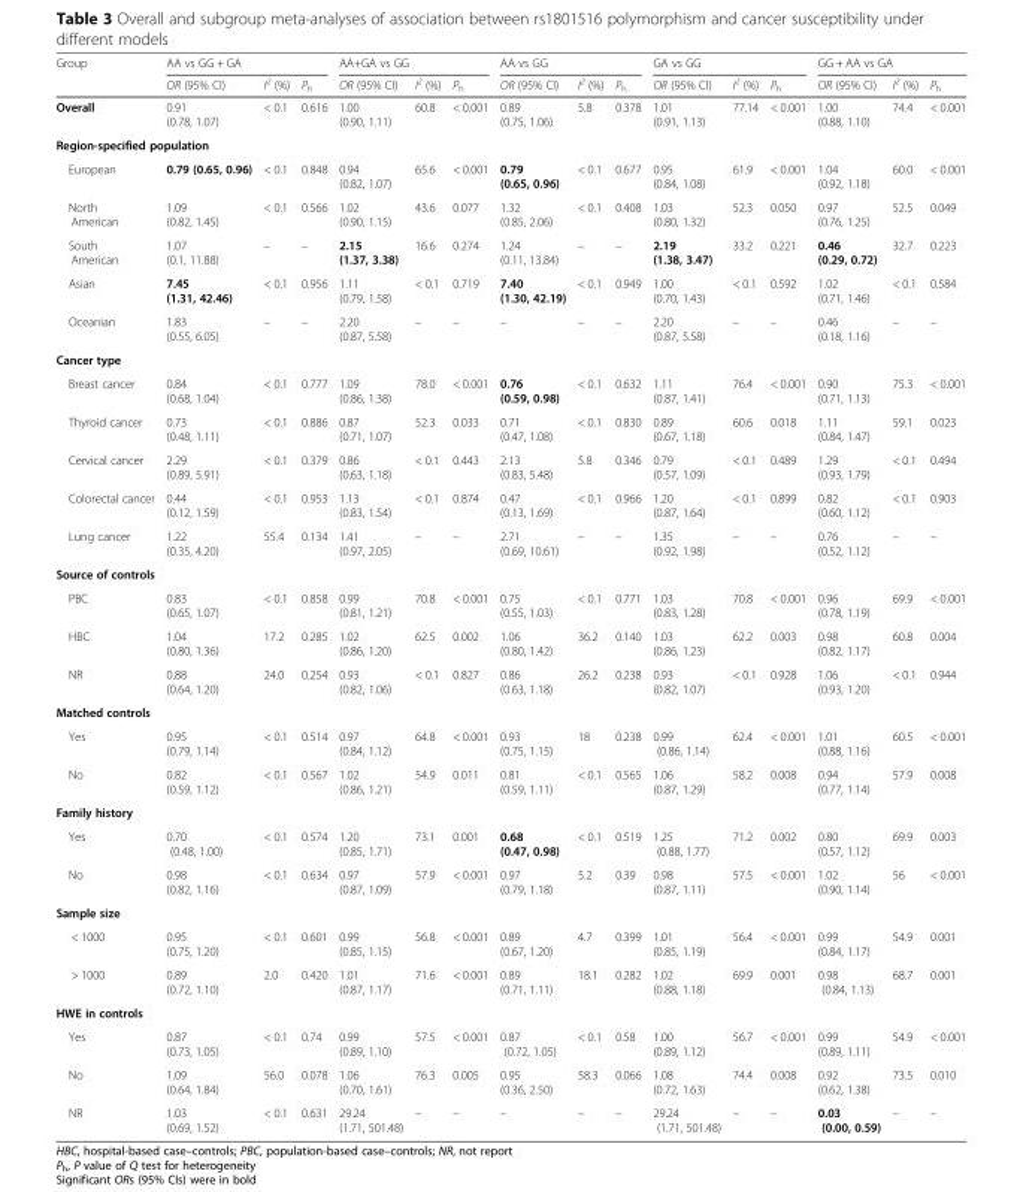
<table><thead><tr><td rowspan="2">Group</td><td colspan="3">AA vs GG + GA</td><td colspan="3">AA+GA vs GG</td><td colspan="3">AA vs GG</td><td colspan="3">GA vs GG</td><td colspan="3">GG + AA vs GA</td></tr><tr><td>OR (95% CI)</td><td>I<sup>2</sup> (%)</td><td>P<sub>h</sub></td><td>OR (95% CI)</td><td>I<sup>2</sup> (%)</td><td>P<sub>h</sub></td><td>OR (95% CI)</td><td>I<sup>2</sup> (%)</td><td>P<sub>h</sub></td><td>OR (95% CI)</td><td>I<sup>2</sup> (%)</td><td>P<sub>h</sub></td><td>OR (95% CI)</td><td>I<sup>2</sup> (%)</td><td>P<sub>h</sub></td></tr></thead><tbody><tr><td>Overall</td><td>0.91 (0.78, 1.07)</td><td>&lt; 0.1</td><td>0.616</td><td>1.00 (0.90, 1.11)</td><td>60.8</td><td>&lt; 0.001</td><td>0.89 (0.75, 1.06)</td><td>5.8</td><td>0.378</td><td>1.01 (0.91, 1.13)</td><td>77.14</td><td>&lt; 0.001</td><td>1.00 (0.88, 1.10)</td><td>74.4</td><td>&lt; 0.001</td></tr><tr><td colspan="16">Region-specified population</td></tr><tr><td>European</td><td>0.79 (0.65, 0.96)</td><td>&lt; 0.1</td><td>0.848</td><td>0.94 (0.82, 1.07)</td><td>65.6</td><td>&lt; 0.001</td><td>0.79 (0.65, 0.96)</td><td>&lt; 0.1</td><td>0.677</td><td>0.95 (0.84, 1.08)</td><td>61.9</td><td>&lt; 0.001</td><td>1.04 (0.92, 1.18)</td><td>60.0</td><td>&lt; 0.001</td></tr><tr><td>North American</td><td>1.09 (0.82, 1.45)</td><td>&lt; 0.1</td><td>0.566</td><td>1.02 (0.90, 1.15)</td><td>43.6</td><td>0.077</td><td>1.32 (0.85, 2.06)</td><td>&lt; 0.1</td><td>0.408</td><td>1.03 (0.80, 1.32)</td><td>52.3</td><td>0.050</td><td>0.97 (0.76, 1.25)</td><td>52.5</td><td>0.049</td></tr><tr><td>South American</td><td>1.07 (0.1, 11.88)</td><td>–</td><td>–</td><td>2.15 (1.37, 3.38)</td><td>16.6</td><td>0.274</td><td>1.24 (0.11, 13.84)</td><td>–</td><td>–</td><td>2.19 (1.38, 3.47)</td><td>33.2</td><td>0.221</td><td>0.46 (0.29, 0.72)</td><td>32.7</td><td>0.223</td></tr><tr><td>Asian</td><td>7.45 (1.31, 42.46)</td><td>&lt; 0.1</td><td>0.956</td><td>1.11 (0.79, 1.58)</td><td>&lt; 0.1</td><td>0.719</td><td>7.40 (1.30, 42.19)</td><td>&lt; 0.1</td><td>0.949</td><td>1.00 (0.70, 1.43)</td><td>&lt; 0.1</td><td>0.592</td><td>1.02 (0.71, 1.46)</td><td>&lt; 0.1</td><td>0.584</td></tr><tr><td>Oceanian</td><td>1.83 (0.55, 6.05)</td><td>–</td><td>–</td><td>2.20 (0.87, 5.58)</td><td>–</td><td>–</td><td>–</td><td>–</td><td>–</td><td>2.20 (0.87, 5.58)</td><td>–</td><td>–</td><td>0.46 (0.18, 1.16)</td><td>–</td><td>–</td></tr><tr><td colspan="16">Cancer type</td></tr><tr><td>Breast cancer</td><td>0.84 (0.68, 1.04)</td><td>&lt; 0.1</td><td>0.777</td><td>1.09 (0.86, 1.38)</td><td>78.0</td><td>&lt; 0.001</td><td>0.76 (0.59, 0.98)</td><td>&lt; 0.1</td><td>0.632</td><td>1.11 (0.87, 1.41)</td><td>76.4</td><td>&lt; 0.001</td><td>0.90 (0.71, 1.13)</td><td>75.3</td><td>&lt; 0.001</td></tr><tr><td>Thyroid cancer</td><td>0.73 (0.48, 1.11)</td><td>&lt; 0.1</td><td>0.886</td><td>0.87 (0.71, 1.07)</td><td>52.3</td><td>0.033</td><td>0.71 (0.47, 1.08)</td><td>&lt; 0.1</td><td>0.830</td><td>0.89 (0.67, 1.18)</td><td>60.6</td><td>0.018</td><td>1.11 (0.84, 1.47)</td><td>59.1</td><td>0.023</td></tr><tr><td>Cervical cancer</td><td>2.29 (0.89, 5.91)</td><td>&lt; 0.1</td><td>0.379</td><td>0.86 (0.63, 1.18)</td><td>&lt; 0.1</td><td>0.443</td><td>2.13 (0.83, 5.48)</td><td>5.8</td><td>0.346</td><td>0.79 (0.57, 1.09)</td><td>&lt; 0.1</td><td>0.489</td><td>1.29 (0.93, 1.79)</td><td>&lt; 0.1</td><td>0.494</td></tr><tr><td>Colorectal cancer</td><td>0.44 (0.12, 1.59)</td><td>&lt; 0.1</td><td>0.953</td><td>1.13 (0.83, 1.54)</td><td>&lt; 0.1</td><td>0.874</td><td>0.47 (0.13, 1.69)</td><td>&lt; 0.1</td><td>0.966</td><td>1.20 (0.87, 1.64)</td><td>&lt; 0.1</td><td>0.899</td><td>0.82 (0.60, 1.12)</td><td>&lt; 0.1</td><td>0.903</td></tr><tr><td>Lung cancer</td><td>1.22 (0.35, 4.20)</td><td>55.4</td><td>0.134</td><td>1.41 (0.97, 2.05)</td><td>–</td><td>–</td><td>2.71 (0.69, 10.61)</td><td>–</td><td>–</td><td>1.35 (0.92, 1.98)</td><td>–</td><td>–</td><td>0.76 (0.52, 1.12)</td><td>–</td><td>–</td></tr><tr><td colspan="16">Source of controls</td></tr><tr><td>PBC</td><td>0.83 (0.65, 1.07)</td><td>&lt; 0.1</td><td>0.858</td><td>0.99 (0.81, 1.21)</td><td>70.8</td><td>&lt; 0.001</td><td>0.75 (0.55, 1.03)</td><td>&lt; 0.1</td><td>0.771</td><td>1.03 (0.83, 1.28)</td><td>70.8</td><td>&lt; 0.001</td><td>0.96 (0.78, 1.19)</td><td>69.9</td><td>&lt; 0.001</td></tr><tr><td>HBC</td><td>1.04 (0.80, 1.36)</td><td>17.2</td><td>0.285</td><td>1.02 (0.86, 1.20)</td><td>62.5</td><td>0.002</td><td>1.06 (0.80, 1.42)</td><td>36.2</td><td>0.140</td><td>1.03 (0.86, 1.23)</td><td>62.2</td><td>0.003</td><td>0.98 (0.82, 1.17)</td><td>60.8</td><td>0.004</td></tr><tr><td>NR</td><td>0.88 (0.64, 1.20)</td><td>24.0</td><td>0.254</td><td>0.93 (0.82, 1.06)</td><td>&lt; 0.1</td><td>0.827</td><td>0.86 (0.63, 1.18)</td><td>26.2</td><td>0.238</td><td>0.93 (0.82, 1.07)</td><td>&lt; 0.1</td><td>0.928</td><td>1.06 (0.93, 1.20)</td><td>&lt; 0.1</td><td>0.944</td></tr><tr><td colspan="16">Matched controls</td></tr><tr><td>Yes</td><td>0.95 (0.79, 1.14)</td><td>&lt; 0.1</td><td>0.514</td><td>0.97 (0.84, 1.12)</td><td>64.8</td><td>&lt; 0.001</td><td>0.93 (0.75, 1.15)</td><td>18</td><td>0.238</td><td>0.99 (0.86, 1.14)</td><td>62.4</td><td>&lt; 0.001</td><td>1.01 (0.88, 1.16)</td><td>60.5</td><td>&lt; 0.001</td></tr><tr><td>No</td><td>0.82 (0.59, 1.12)</td><td>&lt; 0.1</td><td>0.567</td><td>1.02 (0.86, 1.21)</td><td>54.9</td><td>0.011</td><td>0.81 (0.59, 1.11)</td><td>&lt; 0.1</td><td>0.565</td><td>1.06 (0.87, 1.29)</td><td>58.2</td><td>0.008</td><td>0.94 (0.77, 1.14)</td><td>57.9</td><td>0.008</td></tr><tr><td colspan="16">Family history</td></tr><tr><td>Yes</td><td>0.70 (0.48, 1.00)</td><td>&lt; 0.1</td><td>0.574</td><td>1.20 (0.85, 1.71)</td><td>73.1</td><td>0.001</td><td>0.68 (0.47, 0.98)</td><td>&lt; 0.1</td><td>0.519</td><td>1.25 (0.88, 1.77)</td><td>71.2</td><td>0.002</td><td>0.80 (0.57, 1.12)</td><td>69.9</td><td>0.003</td></tr><tr><td>No</td><td>0.98 (0.82, 1.16)</td><td>&lt; 0.1</td><td>0.634</td><td>0.97 (0.87, 1.09)</td><td>57.9</td><td>&lt; 0.001</td><td>0.97 (0.79, 1.18)</td><td>5.2</td><td>0.39</td><td>0.98 (0.87, 1.11)</td><td>57.5</td><td>&lt; 0.001</td><td>1.02 (0.90, 1.14)</td><td>56</td><td>&lt; 0.001</td></tr><tr><td colspan="16">Sample size</td></tr><tr><td>&lt; 1000</td><td>0.95 (0.75, 1.20)</td><td>&lt; 0.1</td><td>0.601</td><td>0.99 (0.85, 1.15)</td><td>56.8</td><td>&lt; 0.001</td><td>0.89 (0.67, 1.20)</td><td>4.7</td><td>0.399</td><td>1.01 (0.85, 1.19)</td><td>56.4</td><td>&lt; 0.001</td><td>0.99 (0.84, 1.17)</td><td>54.9</td><td>0.001</td></tr><tr><td>&gt; 1000</td><td>0.89 (0.72, 1.10)</td><td>2.0</td><td>0.420</td><td>1.01 (0.87, 1.17)</td><td>71.6</td><td>&lt; 0.001</td><td>0.89 (0.71, 1.11)</td><td>18.1</td><td>0.282</td><td>1.02 (0.88, 1.18)</td><td>69.9</td><td>0.001</td><td>0.98 (0.84, 1.13)</td><td>68.7</td><td>0.001</td></tr><tr><td colspan="16">HWE in controls</td></tr><tr><td>Yes</td><td>0.87 (0.73, 1.05)</td><td>&lt; 0.1</td><td>0.74</td><td>0.99 (0.89, 1.10)</td><td>57.5</td><td>&lt; 0.001</td><td>0.87 (0.72, 1.05)</td><td>&lt; 0.1</td><td>0.58</td><td>1.00 (0.89, 1.12)</td><td>56.7</td><td>&lt; 0.001</td><td>0.99 (0.89, 1.11)</td><td>54.9</td><td>&lt; 0.001</td></tr><tr><td>No</td><td>1.09 (0.64, 1.84)</td><td>56.0</td><td>0.078</td><td>1.06 (0.70, 1.61)</td><td>76.3</td><td>0.005</td><td>0.95 (0.36, 2.50)</td><td>58.3</td><td>0.066</td><td>1.08 (0.72, 1.63)</td><td>74.4</td><td>0.008</td><td>0.92 (0.62, 1.38)</td><td>73.5</td><td>0.010</td></tr><tr><td>NR</td><td>1.03 (0.69, 1.52)</td><td>&lt; 0.1</td><td>0.631</td><td>29.24 (1.71, 501.48)</td><td>–</td><td>–</td><td>–</td><td>–</td><td>–</td><td>29.24 (1.71, 501.48)</td><td>–</td><td>–</td><td>0.03 (0.00, 0.59)</td><td>–</td><td>–</td></tr></tbody></table>